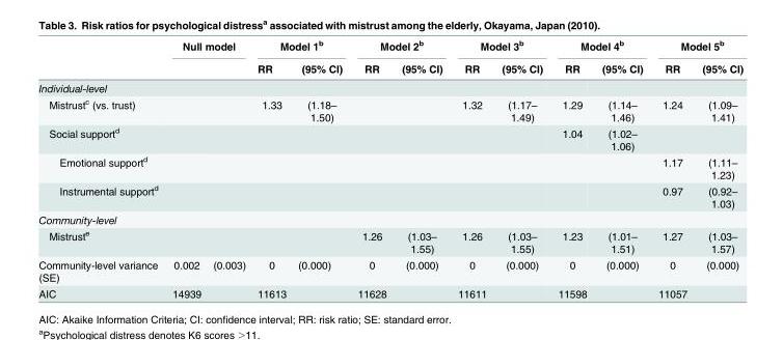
<table><thead><tr><td rowspan="2"></td><td colspan="2">Null model</td><td colspan="2">Model 1<sup>b</sup></td><td colspan="2">Model 2<sup>b</sup></td><td colspan="2">Model 3<sup>b</sup></td><td colspan="2">Model 4<sup>b</sup></td><td colspan="2">Model 5<sup>b</sup></td></tr><tr><td></td><td></td><td>RR</td><td>(95% CI)</td><td>RR</td><td>(95% CI)</td><td>RR</td><td>(95% CI)</td><td>RR</td><td>(95% CI)</td><td>RR</td><td>(95% CI)</td></tr></thead><tbody><tr><td colspan="13">Individual-level</td></tr><tr><td>Mistrust<sup>c</sup> (vs. trust)</td><td></td><td></td><td>1.33</td><td>(1.18– 1.50)</td><td></td><td></td><td>1.32</td><td>(1.17– 1.49)</td><td>1.29</td><td>(1.14– 1.46)</td><td>1.24</td><td>(1.09– 1.41)</td></tr><tr><td>Social support<sup>d</sup></td><td></td><td></td><td></td><td></td><td></td><td></td><td></td><td></td><td>1.04</td><td>(1.02– 1.06)</td><td></td><td></td></tr><tr><td>Emotional support<sup>d</sup></td><td></td><td></td><td></td><td></td><td></td><td></td><td></td><td></td><td></td><td></td><td>1.17</td><td>(1.11– 1.23)</td></tr><tr><td>Instrumental support<sup>d</sup></td><td></td><td></td><td></td><td></td><td></td><td></td><td></td><td></td><td></td><td></td><td>0.97</td><td>(0.92– 1.03)</td></tr><tr><td colspan="13">Community-level</td></tr><tr><td>Mistrust<sup>e</sup></td><td></td><td></td><td></td><td></td><td>1.26</td><td>(1.03– 1.55)</td><td>1.26</td><td>(1.03– 1.55)</td><td>1.23</td><td>(1.01– 1.51)</td><td>1.27</td><td>(1.03– 1.57)</td></tr><tr><td>Community-level variance (SE)</td><td>0.002</td><td>(0.003)</td><td>0</td><td>(0.000)</td><td>0</td><td>(0.000)</td><td>0</td><td>(0.000)</td><td>0</td><td>(0.000)</td><td>0</td><td>(0.000)</td></tr><tr><td>AIC</td><td>14939</td><td></td><td>11613</td><td></td><td>11628</td><td></td><td>11611</td><td></td><td>11598</td><td></td><td>11057</td><td></td></tr></tbody></table>